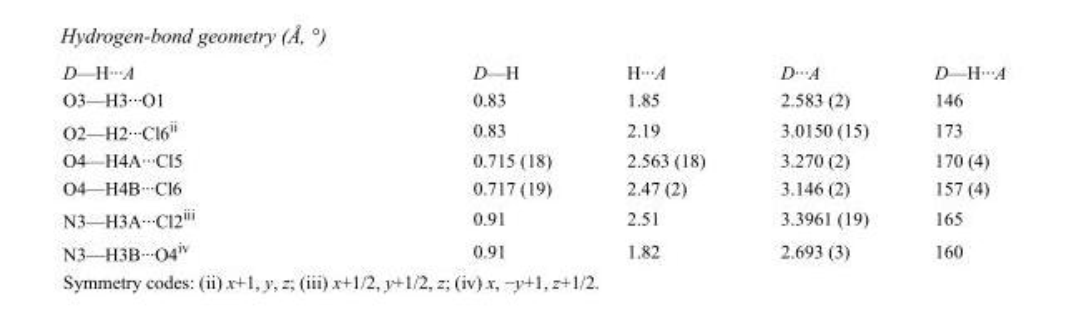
<table><tbody><tr><td>D—H···A</td><td>D—H</td><td>H···A</td><td>D···A</td><td>D—H···A</td></tr><tr><td>O3—H3···O1</td><td>0.83</td><td>1.85</td><td>2.583 (2)</td><td>146</td></tr><tr><td>O2—H2···Cl6<sup>ii</sup></td><td>0.83</td><td>2.19</td><td>3.0150 (15)</td><td>173</td></tr><tr><td>O4—H4A···Cl5</td><td>0.715 (18)</td><td>2.563 (18)</td><td>3.270 (2)</td><td>170 (4)</td></tr><tr><td>O4—H4B···Cl6</td><td>0.717 (19)</td><td>2.47 (2)</td><td>3.146 (2)</td><td>157 (4)</td></tr><tr><td>N3—H3A···Cl2<sup>iii</sup></td><td>0.91</td><td>2.51</td><td>3.3961 (19)</td><td>165</td></tr><tr><td>N3—H3B···O4<sup>iv</sup></td><td>0.91</td><td>1.82</td><td>2.693 (3)</td><td>160</td></tr></tbody></table>